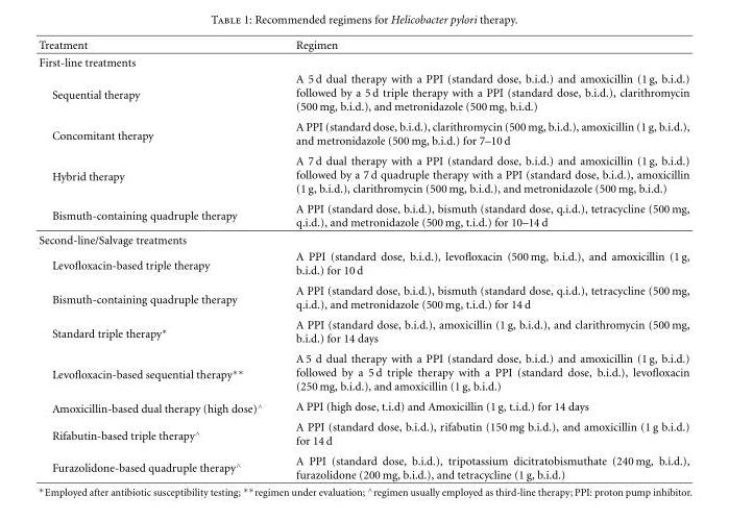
<table><thead><tr><td>Treatment</td><td>Regimen</td></tr></thead><tbody><tr><td colspan="2">First-line treatments</td></tr><tr><td>Sequential therapy</td><td>A 5 d dual therapy with a PPI (standard dose, b.i.d.) and amoxicillin (1 g, b.i.d.) followed by a 5 d triple therapy with a PPI (standard dose, b.i.d.), clarithromycin (500 mg, b.i.d.), and metronidazole (500 mg, b.i.d.)</td></tr><tr><td>Concomitant therapy</td><td>A PPI (standard dose, b.i.d.), clarithromycin (500 mg, b.i.d.), amoxicillin (1 g, b.i.d.), and metronidazole (500 mg, b.i.d.) for 7–10 d</td></tr><tr><td>Hybrid therapy</td><td>A 7 d dual therapy with a PPI (standard dose, b.i.d.) and amoxicillin (1 g, b.i.d.) followed by a 7 d quadruple therapy with a PPI (standard dose, b.i.d.), amoxicillin (1 g, b.i.d.), clarithromycin (500 mg, b.i.d.), and metronidazole (500 mg, b.i.d.)</td></tr><tr><td>Bismuth-containing quadruple therapy</td><td>A PPI (standard dose, b.i.d.), bismuth (standard dose, q.i.d.), tetracycline (500 mg, q.i.d.), and metronidazole (500 mg, t.i.d.) for 10–14 d</td></tr><tr><td colspan="2">Second-line/Salvage treatments</td></tr><tr><td>Levofloxacin-based triple therapy</td><td>A PPI (standard dose, b.i.d.), levofloxacin (500 mg, b.i.d.), and amoxicillin (1 g, b.i.d.) for 10 d</td></tr><tr><td>Bismuth-containing quadruple therapy</td><td>A PPI (standard dose, b.i.d.), bismuth (standard dose, q.i.d.), tetracycline (500 mg, q.i.d.), and metronidazole (500 mg, t.i.d.) for 14 d</td></tr><tr><td>Standard triple therapy∗</td><td>A PPI (standard dose, b.i.d.), amoxicillin (1 g, b.i.d.), and clarithromycin (500 mg, b.i.d.) for 14 days</td></tr><tr><td>Levofloxacin-based sequential therapy∗∗</td><td>A 5 d dual therapy with a PPI (standard dose, b.i.d.) and amoxicillin (1 g, b.i.d.) followed by a 5 d triple therapy with a PPI (standard dose, b.i.d.), levofloxacin (250 mg, b.i.d.), and amoxicillin (1 g, b.i.d.)</td></tr><tr><td>Amoxicillin-based dual therapy (high dose)<sup>∧</sup></td><td>A PPI (high dose, t.i.d) and Amoxicillin (1 g, t.i.d.) for 14 days</td></tr><tr><td>Rifabutin-based triple therapy<sup>∧</sup></td><td>A PPI (standard dose, b.i.d.), rifabutin (150 mg b.i.d.), and amoxicillin (1 g b.i.d.) for 14 d</td></tr><tr><td>Furazolidone-based quadruple therapy<sup>∧</sup></td><td>A PPI (standard dose, b.i.d.), tripotassium dicitratobismuthate (240 mg, b.i.d.), furazolidone (200 mg, b.i.d.), and tetracycline (1 g, b.i.d.)</td></tr></tbody></table>